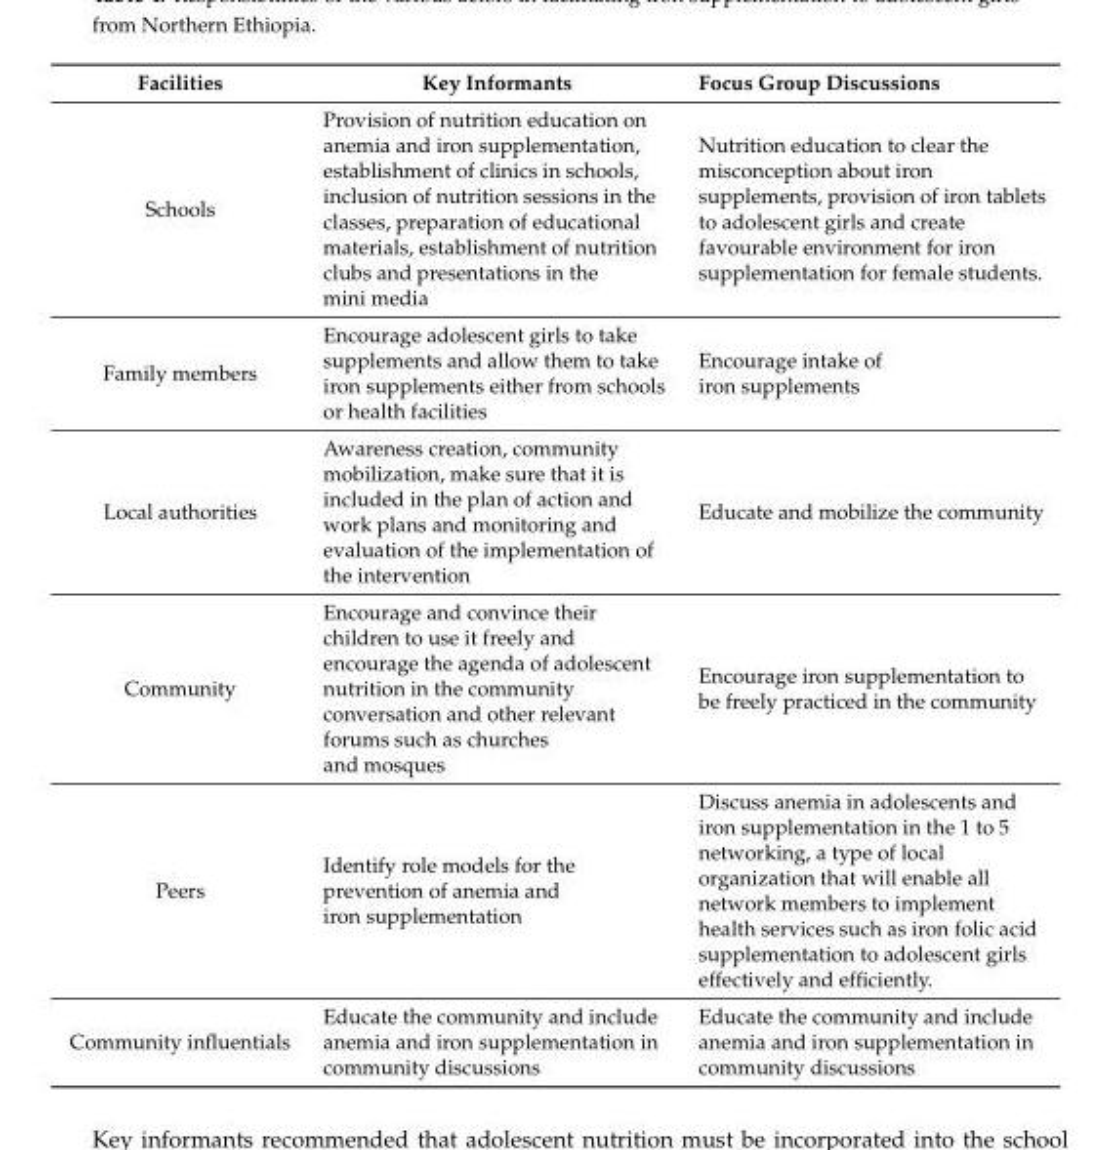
<table><thead><tr><td>Facilities</td><td>Key Informants</td><td>Focus Group Discussions</td></tr></thead><tbody><tr><td>Schools</td><td>Provision of nutrition education on anemia and iron supplementation, establishment of clinics in schools, inclusion of nutrition sessions in the classes, preparation of educational materials, establishment of nutrition clubs and presentations in the mini media</td><td>Nutrition education to clear the misconception about iron supplements, provision of iron tablets to adolescent girls and create favourable environment for iron supplementation for female students.</td></tr><tr><td>Family members</td><td>Encourage adolescent girls to take supplements and allow them to take iron supplements either from schools or health facilities</td><td>Encourage intake of iron supplements</td></tr><tr><td>Local authorities</td><td>Awareness creation, community mobilization, make sure that it is included in the plan of action and work plans and monitoring and evaluation of the implementation of the intervention</td><td>Educate and mobilize the community</td></tr><tr><td>Community</td><td>Encourage and convince their children to use it freely and encourage the agenda of adolescent nutrition in the community conversation and other relevant forums such as churches and mosques</td><td>Encourage iron supplementation to be freely practiced in the community</td></tr><tr><td>Peers</td><td>Identify role models for the prevention of anemia and iron supplementation</td><td>Discuss anemia in adolescents and iron supplementation in the 1 to 5 networking, a type of local organization that will enable all network members to implement health services such as iron folic acid supplementation to adolescent girls effectively and efficiently.</td></tr><tr><td>Community influentials</td><td>Educate the community and include anemia and iron supplementation in community discussions</td><td>Educate the community and include anemia and iron supplementation in community discussions</td></tr></tbody></table>